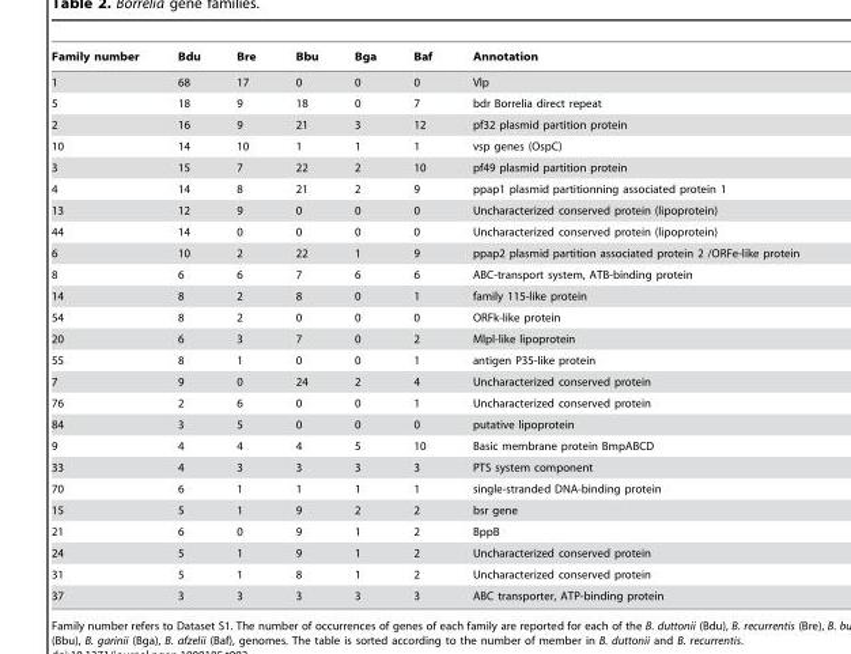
<table><thead><tr><td>Family number</td><td>Bdu</td><td>Bre</td><td>Bbu</td><td>Bga</td><td>Baf</td><td>Annotation</td></tr></thead><tbody><tr><td>1</td><td>68</td><td>17</td><td>0</td><td>0</td><td>0</td><td>Vlp</td></tr><tr><td>5</td><td>18</td><td>9</td><td>18</td><td>0</td><td>7</td><td>bdr Borrelia direct repeat</td></tr><tr><td>2</td><td>16</td><td>9</td><td>21</td><td>3</td><td>12</td><td>pf32 plasmid partition protein</td></tr><tr><td>10</td><td>14</td><td>10</td><td>1</td><td>1</td><td>1</td><td>vsp genes (OspC)</td></tr><tr><td>3</td><td>15</td><td>7</td><td>22</td><td>2</td><td>10</td><td>pf49 plasmid partition protein</td></tr><tr><td>4</td><td>14</td><td>8</td><td>21</td><td>2</td><td>9</td><td>ppap1 plasmid partitionning associated protein 1</td></tr><tr><td>13</td><td>12</td><td>9</td><td>0</td><td>0</td><td>0</td><td>Uncharacterized conserved protein (lipoprotein)</td></tr><tr><td>44</td><td>14</td><td>0</td><td>0</td><td>0</td><td>0</td><td>Uncharacterized conserved protein (lipoprotein)</td></tr><tr><td>6</td><td>10</td><td>2</td><td>22</td><td>1</td><td>9</td><td>ppap2 plasmid partition associated protein 2 /ORFe-like protein</td></tr><tr><td>8</td><td>6</td><td>6</td><td>7</td><td>6</td><td>6</td><td>ABC-transport system, ATB-binding protein</td></tr><tr><td>14</td><td>8</td><td>2</td><td>8</td><td>0</td><td>1</td><td>family 115-like protein</td></tr><tr><td>54</td><td>8</td><td>2</td><td>0</td><td>0</td><td>0</td><td>ORFk-like protein</td></tr><tr><td>20</td><td>6</td><td>3</td><td>7</td><td>0</td><td>2</td><td>Mlpl-like lipoprotein</td></tr><tr><td>55</td><td>8</td><td>1</td><td>0</td><td>0</td><td>1</td><td>antigen P35-like protein</td></tr><tr><td>7</td><td>9</td><td>0</td><td>24</td><td>2</td><td>4</td><td>Uncharacterized conserved protein</td></tr><tr><td>76</td><td>2</td><td>6</td><td>0</td><td>0</td><td>1</td><td>Uncharacterized conserved protein</td></tr><tr><td>84</td><td>3</td><td>5</td><td>0</td><td>0</td><td>0</td><td>putative lipoprotein</td></tr><tr><td>9</td><td>4</td><td>4</td><td>4</td><td>5</td><td>10</td><td>Basic membrane protein BmpABCD</td></tr><tr><td>33</td><td>4</td><td>3</td><td>3</td><td>3</td><td>3</td><td>PTS system component</td></tr><tr><td>70</td><td>6</td><td>1</td><td>1</td><td>1</td><td>1</td><td>single-stranded DNA-binding protein</td></tr><tr><td>15</td><td>5</td><td>1</td><td>9</td><td>2</td><td>2</td><td>bsr gene</td></tr><tr><td>21</td><td>6</td><td>0</td><td>9</td><td>1</td><td>2</td><td>BppB</td></tr><tr><td>24</td><td>5</td><td>1</td><td>9</td><td>1</td><td>2</td><td>Uncharacterized conserved protein</td></tr><tr><td>31</td><td>5</td><td>1</td><td>8</td><td>1</td><td>2</td><td>Uncharacterized conserved protein</td></tr><tr><td>37</td><td>3</td><td>3</td><td>3</td><td>3</td><td>3</td><td>ABC transporter, ATP-binding protein</td></tr></tbody></table>